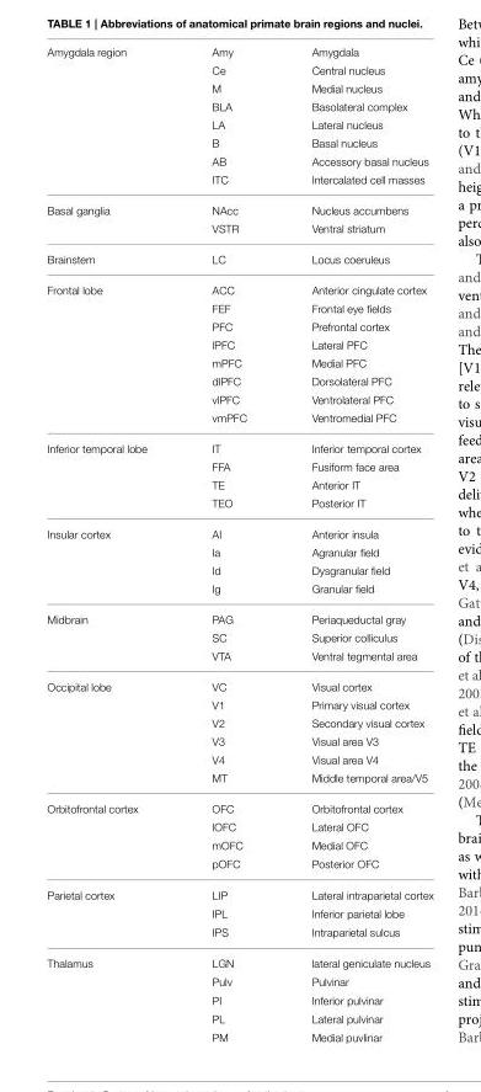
<table><tbody><tr><td rowspan="8">Amygdala region</td><td>Amy</td><td>Amygdala</td></tr><tr><td>Ce</td><td>Central nucleus</td></tr><tr><td>M</td><td>Medial nucleus</td></tr><tr><td>BLA</td><td>Basolateral complex</td></tr><tr><td>LA</td><td>Lateral nucleus</td></tr><tr><td>B</td><td>Basal nucleus</td></tr><tr><td>AB</td><td>Accessory basal nucleus</td></tr><tr><td>ITC</td><td>Intercalated cell masses</td></tr><tr><td rowspan="2">Basal ganglia</td><td>NAcc</td><td>Nucleus accumbens</td></tr><tr><td>VSTR</td><td>Ventral striatum</td></tr><tr><td>Brainstem</td><td>LC</td><td>Locus coeruleus</td></tr><tr><td rowspan="8">Frontal lobe</td><td>ACC</td><td>Anterior cingulate cortex</td></tr><tr><td>FEF</td><td>Frontal eye fields</td></tr><tr><td>PFC</td><td>Prefrontal cortex</td></tr><tr><td>lPFC</td><td>Lateral PFC</td></tr><tr><td>mPFC</td><td>Medial PFC</td></tr><tr><td>dlPFC</td><td>Dorsolateral PFC</td></tr><tr><td>vlPFC</td><td>Ventrolateral PFC</td></tr><tr><td>vmPFC</td><td>Ventromedial PFC</td></tr><tr><td rowspan="4">Inferior temporal lobe</td><td>IT</td><td>Inferior temporal cortex</td></tr><tr><td>FFA</td><td>Fusiform face area</td></tr><tr><td>TE</td><td>Anterior IT</td></tr><tr><td>TEO</td><td>Posterior IT</td></tr><tr><td rowspan="4">Insular cortex</td><td>AI</td><td>Anterior insula</td></tr><tr><td>Ia</td><td>Agranular field</td></tr><tr><td>Id</td><td>Dysgranular field</td></tr><tr><td>Ig</td><td>Granular field</td></tr><tr><td rowspan="3">Midbrain</td><td>PAG</td><td>Periaqueductal gray</td></tr><tr><td>SC</td><td>Superior colliculus</td></tr><tr><td>VTA</td><td>Ventral tegmental area</td></tr><tr><td rowspan="6">Occipital lobe</td><td>VC</td><td>Visual cortex</td></tr><tr><td>V1</td><td>Primary visual cortex</td></tr><tr><td>V2</td><td>Secondary visual cortex</td></tr><tr><td>V3</td><td>Visual area V3</td></tr><tr><td>V4</td><td>Visual area V4</td></tr><tr><td>MT</td><td>Middle temporal area/V5</td></tr><tr><td rowspan="4">Orbitofrontal cortex</td><td>OFC</td><td>Orbitofrontal cortex</td></tr><tr><td>lOFC</td><td>Lateral OFC</td></tr><tr><td>mOFC</td><td>Medial OFC</td></tr><tr><td>pOFC</td><td>Posterior OFC</td></tr><tr><td rowspan="3">Parietal cortex</td><td>LIP</td><td>Lateral intraparietal cortex</td></tr><tr><td>IPL</td><td>Inferior parietal lobe</td></tr><tr><td>IPS</td><td>Intraparietal sulcus</td></tr><tr><td rowspan="5">Thalamus</td><td>LGN</td><td>lateral geniculate nucleus</td></tr><tr><td>Pulv</td><td>Pulvinar</td></tr><tr><td>PI</td><td>Inferior pulvinar</td></tr><tr><td>PL</td><td>Lateral pulvinar</td></tr><tr><td>PM</td><td>Medial puvlinar</td></tr></tbody></table>